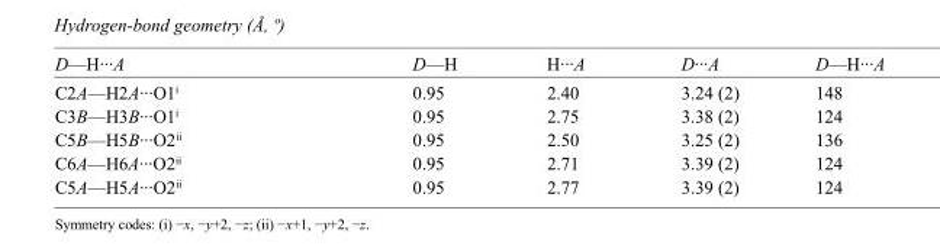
<table><tbody><tr><td>D—H···A</td><td>D—H</td><td>H···A</td><td>D···A</td><td>D—H···A</td></tr><tr><td>C2A—H2A···O1<sup>i</sup></td><td>0.95</td><td>2.40</td><td>3.24 (2)</td><td>148</td></tr><tr><td>C3B—H3B···O1<sup>i</sup></td><td>0.95</td><td>2.75</td><td>3.38 (2)</td><td>124</td></tr><tr><td>C5B—H5B···O2<sup>ii</sup></td><td>0.95</td><td>2.50</td><td>3.25 (2)</td><td>136</td></tr><tr><td>C6A—H6A···O2<sup>ii</sup></td><td>0.95</td><td>2.71</td><td>3.39 (2)</td><td>124</td></tr><tr><td>C5A—H5A···O2<sup>ii</sup></td><td>0.95</td><td>2.77</td><td>3.39 (2)</td><td>124</td></tr></tbody></table>